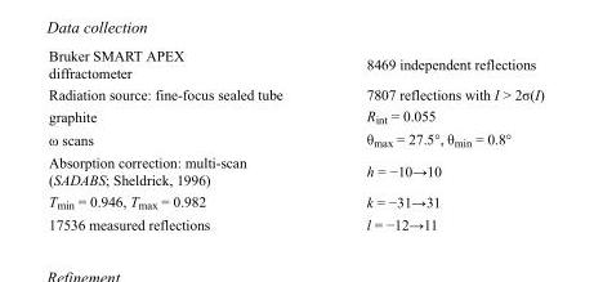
<table><tbody><tr><td>Bruker SMART APEX diffractometer</td><td>8469 independent reflections</td></tr><tr><td>Radiation source: fine-focus sealed tube</td><td>7807 reflections with I &gt; 2σ(I)</td></tr><tr><td>graphite</td><td>R<sub>int</sub> = 0.055</td></tr><tr><td>ω scans</td><td>θ<sub>max</sub> = 27.5°, θ<sub>min</sub> = 0.8°</td></tr><tr><td>Absorption correction: multi-scan (SADABS; Sheldrick, 1996)</td><td>h = −10→10</td></tr><tr><td>T<sub>min</sub> = 0.946, T<sub>max</sub> = 0.982</td><td>k = −31→31</td></tr><tr><td>17536 measured reflections</td><td>l = −12→11</td></tr></tbody></table>